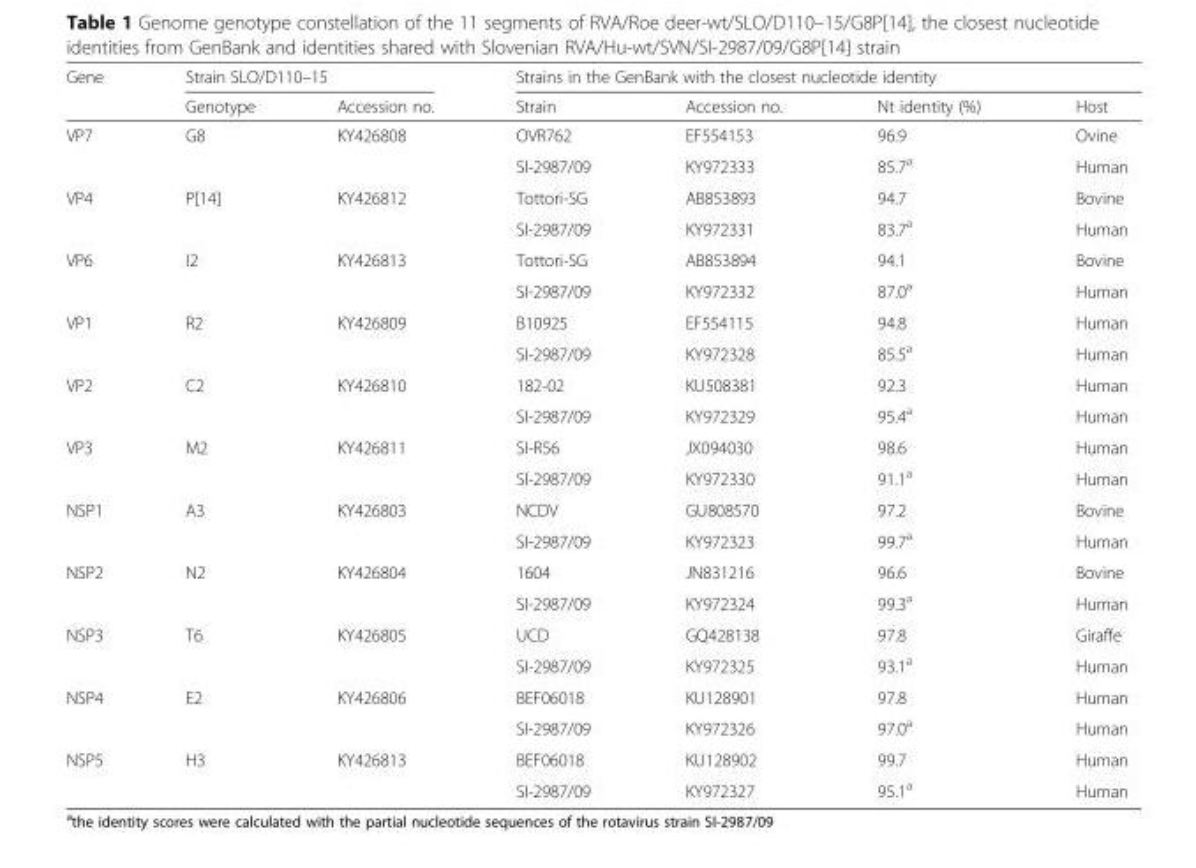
<table><thead><tr><td rowspan="2">Gene</td><td colspan="2">Strain SLO/D110–15</td><td colspan="4">Strains in the GenBank with the closest nucleotide identity</td></tr><tr><td>Genotype</td><td>Accession no.</td><td>Strain</td><td>Accession no.</td><td>Nt identity (%)</td><td>Host</td></tr></thead><tbody><tr><td rowspan="2">VP7</td><td rowspan="2">G8</td><td rowspan="2">KY426808</td><td>OVR762</td><td>EF554153</td><td>96.9</td><td>Ovine</td></tr><tr><td>SI-2987/09</td><td>KY972333</td><td>85.7<sup>a</sup></td><td>Human</td></tr><tr><td rowspan="2">VP4</td><td rowspan="2">P[14]</td><td rowspan="2">KY426812</td><td>Tottori-SG</td><td>AB853893</td><td>94.7</td><td>Bovine</td></tr><tr><td>SI-2987/09</td><td>KY972331</td><td>83.7<sup>a</sup></td><td>Human</td></tr><tr><td rowspan="2">VP6</td><td rowspan="2">I2</td><td rowspan="2">KY426813</td><td>Tottori-SG</td><td>AB853894</td><td>94.1</td><td>Bovine</td></tr><tr><td>SI-2987/09</td><td>KY972332</td><td>87.0<sup>a</sup></td><td>Human</td></tr><tr><td rowspan="2">VP1</td><td rowspan="2">R2</td><td rowspan="2">KY426809</td><td>B10925</td><td>EF554115</td><td>94.8</td><td>Human</td></tr><tr><td>SI-2987/09</td><td>KY972328</td><td>85.5<sup>a</sup></td><td>Human</td></tr><tr><td rowspan="2">VP2</td><td rowspan="2">C2</td><td rowspan="2">KY426810</td><td>182-02</td><td>KU508381</td><td>92.3</td><td>Human</td></tr><tr><td>SI-2987/09</td><td>KY972329</td><td>95.4<sup>a</sup></td><td>Human</td></tr><tr><td rowspan="2">VP3</td><td rowspan="2">M2</td><td rowspan="2">KY426811</td><td>SI-R56</td><td>JX094030</td><td>98.6</td><td>Human</td></tr><tr><td>SI-2987/09</td><td>KY972330</td><td>91.1<sup>a</sup></td><td>Human</td></tr><tr><td rowspan="2">NSP1</td><td rowspan="2">A3</td><td rowspan="2">KY426803</td><td>NCDV</td><td>GU808570</td><td>97.2</td><td>Bovine</td></tr><tr><td>SI-2987/09</td><td>KY972323</td><td>99.7<sup>a</sup></td><td>Human</td></tr><tr><td rowspan="2">NSP2</td><td rowspan="2">N2</td><td rowspan="2">KY426804</td><td>1604</td><td>JN831216</td><td>96.6</td><td>Bovine</td></tr><tr><td>SI-2987/09</td><td>KY972324</td><td>99.3<sup>a</sup></td><td>Human</td></tr><tr><td rowspan="2">NSP3</td><td rowspan="2">T6</td><td rowspan="2">KY426805</td><td>UCD</td><td>GQ428138</td><td>97.8</td><td>Giraffe</td></tr><tr><td>SI-2987/09</td><td>KY972325</td><td>93.1<sup>a</sup></td><td>Human</td></tr><tr><td rowspan="2">NSP4</td><td rowspan="2">E2</td><td rowspan="2">KY426806</td><td>BEF06018</td><td>KU128901</td><td>97.8</td><td>Human</td></tr><tr><td>SI-2987/09</td><td>KY972326</td><td>97.0<sup>a</sup></td><td>Human</td></tr><tr><td rowspan="2">NSP5</td><td rowspan="2">H3</td><td rowspan="2">KY426813</td><td>BEF06018</td><td>KU128902</td><td>99.7</td><td>Human</td></tr><tr><td>SI-2987/09</td><td>KY972327</td><td>95.1<sup>a</sup></td><td>Human</td></tr></tbody></table>